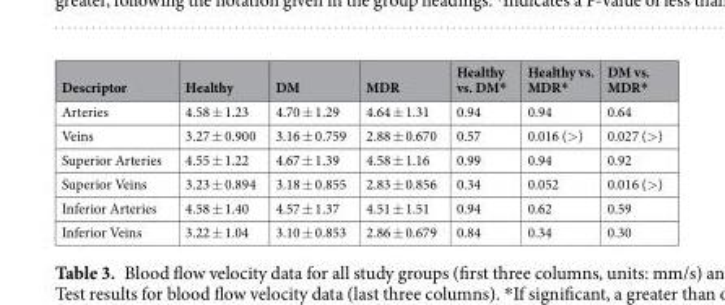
<table><thead><tr><td>Descriptor</td><td>Healthy</td><td>DM</td><td>MDR</td><td>Healthy vs. DM*</td><td>Healthy vs. MDR*</td><td>DM vs. MDR*</td></tr></thead><tbody><tr><td>Arteries</td><td>4.58 ± 1.23</td><td>4.70 ± 1.29</td><td>4.64 ± 1.31</td><td>0.94</td><td>0.94</td><td>0.64</td></tr><tr><td>Veins</td><td>3.27 ± 0.900</td><td>3.16 ± 0.759</td><td>2.88 ± 0.670</td><td>0.57</td><td>0.016 (&gt;)</td><td>0.027 (&gt;)</td></tr><tr><td>Superior Arteries</td><td>4.55 ± 1.22</td><td>4.67 ± 1.39</td><td>4.58 ± 1.16</td><td>0.99</td><td>0.94</td><td>0.92</td></tr><tr><td>Superior Veins</td><td>3.23 ± 0.894</td><td>3.18 ± 0.855</td><td>2.83 ± 0.856</td><td>0.34</td><td>0.052</td><td>0.016 (&gt;)</td></tr><tr><td>Inferior Arteries</td><td>4.58 ± 1.40</td><td>4.57 ± 1.37</td><td>4.51 ± 1.51</td><td>0.94</td><td>0.62</td><td>0.59</td></tr><tr><td>Inferior Veins</td><td>3.22 ± 1.04</td><td>3.10 ± 0.853</td><td>2.86 ± 0.679</td><td>0.84</td><td>0.34</td><td>0.30</td></tr></tbody></table>